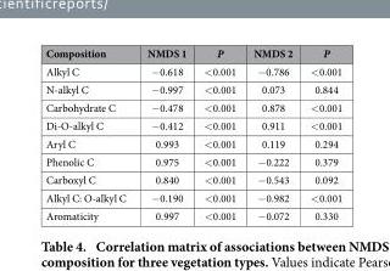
<table><thead><tr><td>Composition</td><td>NMDS 1</td><td>P</td><td>NMDS 2</td><td>P</td></tr></thead><tbody><tr><td>Alkyl C</td><td>− 0.618</td><td>&lt; 0.001</td><td>− 0.786</td><td>&lt; 0.001</td></tr><tr><td>N-alkyl C</td><td>− 0.997</td><td>&lt; 0.001</td><td>0.073</td><td>0.844</td></tr><tr><td>Carbohydrate C</td><td>− 0.478</td><td>&lt; 0.001</td><td>0.878</td><td>&lt; 0.001</td></tr><tr><td>Di-O-alkyl C</td><td>− 0.412</td><td>&lt; 0.001</td><td>0.911</td><td>&lt; 0.001</td></tr><tr><td>Aryl C</td><td>0.993</td><td>&lt; 0.001</td><td>0.119</td><td>0.294</td></tr><tr><td>Phenolic C</td><td>0.975</td><td>&lt; 0.001</td><td>− 0.222</td><td>0.379</td></tr><tr><td>Carboxyl C</td><td>0.840</td><td>&lt; 0.001</td><td>− 0.543</td><td>0.092</td></tr><tr><td>Alkyl C: O-alkyl C</td><td>− 0.190</td><td>&lt; 0.001</td><td>− 0.982</td><td>&lt; 0.001</td></tr><tr><td>Aromaticity</td><td>0.997</td><td>&lt; 0.001</td><td>− 0.072</td><td>0.330</td></tr></tbody></table>